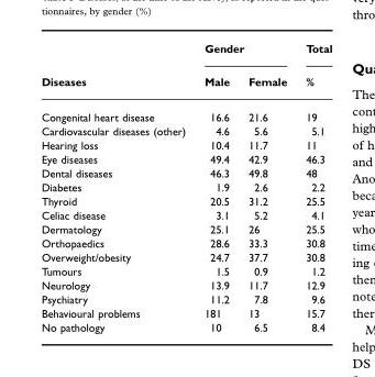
<table><thead><tr><td rowspan="2">Diseases</td><td colspan="2">Gender</td><td rowspan="2">Total %</td></tr><tr><td>Male</td><td>Female</td></tr></thead><tbody><tr><td>Congenital heart disease</td><td>16.6</td><td>21.6</td><td>19</td></tr><tr><td>Cardiovascular diseases (other)</td><td>4.6</td><td>5.6</td><td>5.1</td></tr><tr><td>Hearing loss</td><td>10.4</td><td>11.7</td><td>11</td></tr><tr><td>Eye diseases</td><td>49.4</td><td>42.9</td><td>46.3</td></tr><tr><td>Dental diseases</td><td>46.3</td><td>49.8</td><td>48</td></tr><tr><td>Diabetes</td><td>1.9</td><td>2.6</td><td>2.2</td></tr><tr><td>Thyroid</td><td>20.5</td><td>31.2</td><td>25.5</td></tr><tr><td>Celiac disease</td><td>3.1</td><td>5.2</td><td>4.1</td></tr><tr><td>Dermatology</td><td>25.1</td><td>26</td><td>25.5</td></tr><tr><td>Orthopaedics</td><td>28.6</td><td>33.3</td><td>30.8</td></tr><tr><td>Overweight/obesity</td><td>24.7</td><td>37.7</td><td>30.8</td></tr><tr><td>Tumours</td><td>1.5</td><td>0.9</td><td>1.2</td></tr><tr><td>Neurology</td><td>13.9</td><td>11.7</td><td>12.9</td></tr><tr><td>Psychiatry</td><td>11.2</td><td>7.8</td><td>9.6</td></tr><tr><td>Behavioural problems</td><td>181</td><td>13</td><td>15.7</td></tr><tr><td>No pathology</td><td>10</td><td>6.5</td><td>8.4</td></tr></tbody></table>